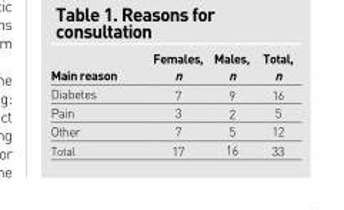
<table><thead><tr><td>Main reason</td><td>Females, n</td><td>Males, n</td><td>Total, n</td></tr></thead><tbody><tr><td>Diabetes</td><td>7</td><td>9</td><td>16</td></tr><tr><td>Pain</td><td>3</td><td>2</td><td>5</td></tr><tr><td>Other</td><td>7</td><td>5</td><td>12</td></tr><tr><td>Total</td><td>17</td><td>16</td><td>33</td></tr></tbody></table>